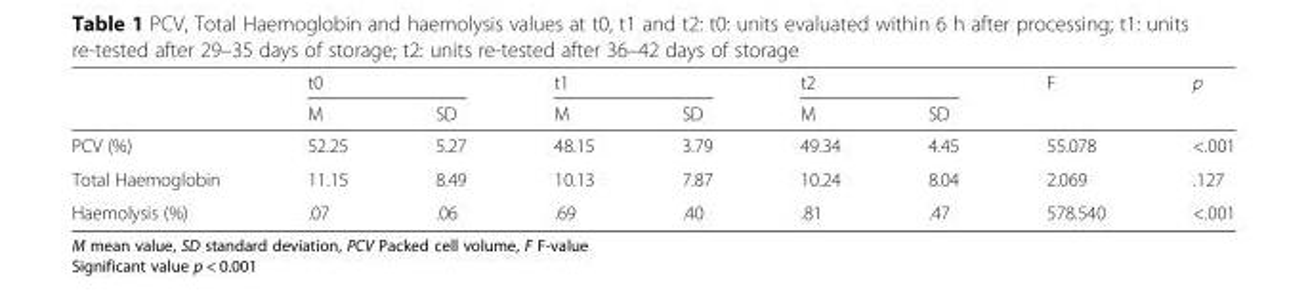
<table><thead><tr><td rowspan="2"></td><td colspan="2">t0</td><td colspan="2">t1</td><td colspan="2">t2</td><td rowspan="2">F</td><td rowspan="2">p</td></tr><tr><td>M</td><td>SD</td><td>M</td><td>SD</td><td>M</td><td>SD</td></tr></thead><tbody><tr><td>PCV (%)</td><td>52.25</td><td>5.27</td><td>48.15</td><td>3.79</td><td>49.34</td><td>4.45</td><td>55.078</td><td>&lt;.001</td></tr><tr><td>Total Haemoglobin</td><td>11.15</td><td>8.49</td><td>10.13</td><td>7.87</td><td>10.24</td><td>8.04</td><td>2.069</td><td>.127</td></tr><tr><td>Haemolysis (%)</td><td>.07</td><td>.06</td><td>.69</td><td>.40</td><td>.81</td><td>.47</td><td>578.540</td><td>&lt;.001</td></tr></tbody></table>